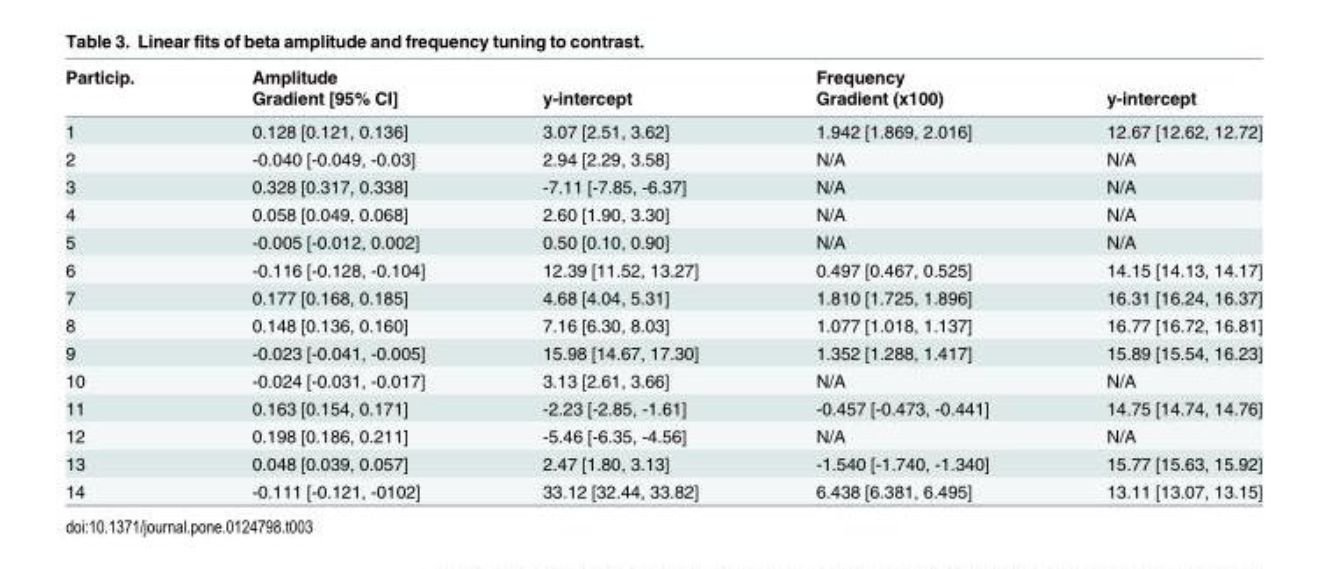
<table><thead><tr><td rowspan="2">Particip.</td><td rowspan="2">Amplitude Gradient [95% CI]</td><td rowspan="2">y-intercept</td><td rowspan="2">Frequency Gradient (x100)</td><td rowspan="2">y-intercept</td></tr><tr></tr></thead><tbody><tr><td>1</td><td>0.128 [0.121, 0.136]</td><td>3.07 [2.51, 3.62]</td><td>1.942 [1.869, 2.016]</td><td>12.67 [12.62, 12.72]</td></tr><tr><td>2</td><td>-0.040 [-0.049, -0.03]</td><td>2.94 [2.29, 3.58]</td><td>N/A</td><td>N/A</td></tr><tr><td>3</td><td>0.328 [0.317, 0.338]</td><td>-7.11 [-7.85, -6.37]</td><td>N/A</td><td>N/A</td></tr><tr><td>4</td><td>0.058 [0.049, 0.068]</td><td>2.60 [1.90, 3.30]</td><td>N/A</td><td>N/A</td></tr><tr><td>5</td><td>-0.005 [-0.012, 0.002]</td><td>0.50 [0.10, 0.90]</td><td>N/A</td><td>N/A</td></tr><tr><td>6</td><td>-0.116 [-0.128, -0.104]</td><td>12.39 [11.52, 13.27]</td><td>0.497 [0.467, 0.525]</td><td>14.15 [14.13, 14.17]</td></tr><tr><td>7</td><td>0.177 [0.168, 0.185]</td><td>4.68 [4.04, 5.31]</td><td>1.810 [1.725, 1.896]</td><td>16.31 [16.24, 16.37]</td></tr><tr><td>8</td><td>0.148 [0.136, 0.160]</td><td>7.16 [6.30, 8.03]</td><td>1.077 [1.018, 1.137]</td><td>16.77 [16.72, 16.81]</td></tr><tr><td>9</td><td>-0.023 [-0.041, -0.005]</td><td>15.98 [14.67, 17.30]</td><td>1.352 [1.288, 1.417]</td><td>15.89 [15.54, 16.23]</td></tr><tr><td>10</td><td>-0.024 [-0.031, -0.017]</td><td>3.13 [2.61, 3.66]</td><td>N/A</td><td>N/A</td></tr><tr><td>11</td><td>0.163 [0.154, 0.171]</td><td>-2.23 [-2.85, -1.61]</td><td>-0.457 [-0.473, -0.441]</td><td>14.75 [14.74, 14.76]</td></tr><tr><td>12</td><td>0.198 [0.186, 0.211]</td><td>-5.46 [-6.35, -4.56]</td><td>N/A</td><td>N/A</td></tr><tr><td>13</td><td>0.048 [0.039, 0.057]</td><td>2.47 [1.80, 3.13]</td><td>-1.540 [-1.740, -1.340]</td><td>15.77 [15.63, 15.92]</td></tr><tr><td>14</td><td>-0.111 [-0.121, -0102]</td><td>33.12 [32.44, 33.82]</td><td>6.438 [6.381, 6.495]</td><td>13.11 [13.07, 13.15]</td></tr></tbody></table>